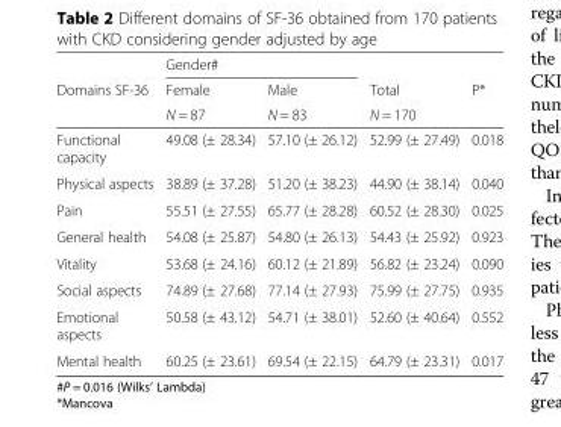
<table><thead><tr><td rowspan="3">Domains SF-36</td><td colspan="2">Gender#</td><td rowspan="3">Total N = 170</td><td rowspan="3">P*</td></tr><tr><td rowspan="2">Female N = 87</td><td rowspan="2">Male N = 83</td></tr><tr></tr></thead><tbody><tr><td>Functional capacity</td><td>49.08 (± 28.34)</td><td>57.10 (± 26.12)</td><td>52.99 (± 27.49)</td><td>0.018</td></tr><tr><td>Physical aspects</td><td>38.89 (± 37.28)</td><td>51.20 (± 38.23)</td><td>44.90 (± 38.14)</td><td>0.040</td></tr><tr><td>Pain</td><td>55.51 (± 27.55)</td><td>65.77 (± 28.28)</td><td>60.52 (± 28.30)</td><td>0.025</td></tr><tr><td>General health</td><td>54.08 (± 25.87)</td><td>54.80 (± 26.13)</td><td>54.43 (± 25.92)</td><td>0.923</td></tr><tr><td>Vitality</td><td>53.68 (± 24.16)</td><td>60.12 (± 21.89)</td><td>56.82 (± 23.24)</td><td>0.090</td></tr><tr><td>Social aspects</td><td>74.89 (± 27.68)</td><td>77.14 (± 27.93)</td><td>75.99 (± 27.75)</td><td>0.935</td></tr><tr><td>Emotional aspects</td><td>50.58 (± 43.12)</td><td>54.71 (± 38.01)</td><td>52.60 (± 40.64)</td><td>0.552</td></tr><tr><td>Mental health</td><td>60.25 (± 23.61)</td><td>69.54 (± 22.15)</td><td>64.79 (± 23.31)</td><td>0.017</td></tr></tbody></table>